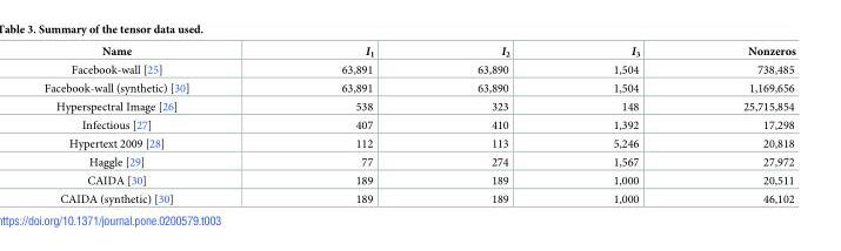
<table><thead><tr><td>Name</td><td>I<sub>1</sub></td><td>I<sub>2</sub></td><td>I<sub>3</sub></td><td>Nonzeros</td></tr></thead><tbody><tr><td>Facebook-wall [25]</td><td>63,891</td><td>63,890</td><td>1,504</td><td>738,485</td></tr><tr><td>Facebook-wall (synthetic) [30]</td><td>63,891</td><td>63,890</td><td>1,504</td><td>1,169,656</td></tr><tr><td>Hyperspectral Image [26]</td><td>538</td><td>323</td><td>148</td><td>25,715,854</td></tr><tr><td>Infectious [27]</td><td>407</td><td>410</td><td>1,392</td><td>17,298</td></tr><tr><td>Hypertext 2009 [28]</td><td>112</td><td>113</td><td>5,246</td><td>20,818</td></tr><tr><td>Haggle [29]</td><td>77</td><td>274</td><td>1,567</td><td>27,972</td></tr><tr><td>CAIDA [30]</td><td>189</td><td>189</td><td>1,000</td><td>20,511</td></tr><tr><td>CAIDA (synthetic) [30]</td><td>189</td><td>189</td><td>1,000</td><td>46,102</td></tr></tbody></table>